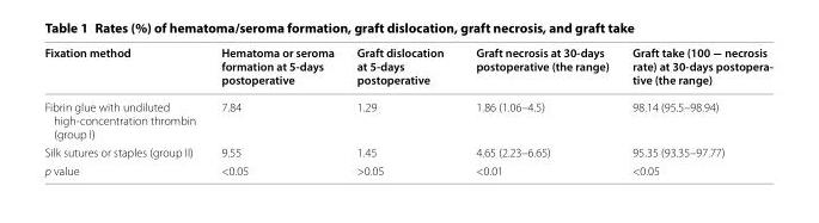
<table><thead><tr><td>Fixation method</td><td>Hematoma or seroma formation at 5-days postoperative</td><td>Graft dislocation at 5-days postoperative</td><td>Graft necrosis at 30-days postoperative (the range)</td><td>Graft take (100 − necrosis rate) at 30-days postopera- tive (the range)</td></tr></thead><tbody><tr><td>Fibrin glue with undiluted high‑concentration thrombin (group I)</td><td>7.84</td><td>1.29</td><td>1.86 (1.06–4.5)</td><td>98.14 (95.5–98.94)</td></tr><tr><td>Silk sutures or staples (group II)</td><td>9.55</td><td>1.45</td><td>4.65 (2.23–6.65)</td><td>95.35 (93.35–97.77)</td></tr><tr><td>p value</td><td>&lt;0.05</td><td>&gt;0.05</td><td>&lt;0.01</td><td>&lt;0.05</td></tr></tbody></table>